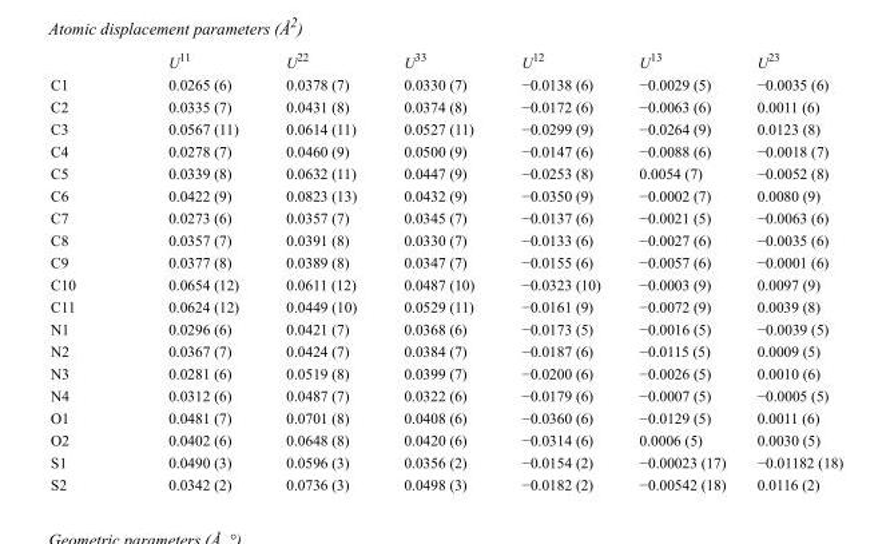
<table><thead><tr><td></td><td>U<sup>11</sup></td><td>U<sup>22</sup></td><td>U<sup>33</sup></td><td>U<sup>12</sup></td><td>U<sup>13</sup></td><td>U<sup>23</sup></td></tr></thead><tbody><tr><td>C1</td><td>0.0265 (6)</td><td>0.0378 (7)</td><td>0.0330 (7)</td><td>−0.0138 (6)</td><td>−0.0029 (5)</td><td>−0.0035 (6)</td></tr><tr><td>C2</td><td>0.0335 (7)</td><td>0.0431 (8)</td><td>0.0374 (8)</td><td>−0.0172 (6)</td><td>−0.0063 (6)</td><td>0.0011 (6)</td></tr><tr><td>C3</td><td>0.0567 (11)</td><td>0.0614 (11)</td><td>0.0527 (11)</td><td>−0.0299 (9)</td><td>−0.0264 (9)</td><td>0.0123 (8)</td></tr><tr><td>C4</td><td>0.0278 (7)</td><td>0.0460 (9)</td><td>0.0500 (9)</td><td>−0.0147 (6)</td><td>−0.0088 (6)</td><td>−0.0018 (7)</td></tr><tr><td>C5</td><td>0.0339 (8)</td><td>0.0632 (11)</td><td>0.0447 (9)</td><td>−0.0253 (8)</td><td>0.0054 (7)</td><td>−0.0052 (8)</td></tr><tr><td>C6</td><td>0.0422 (9)</td><td>0.0823 (13)</td><td>0.0432 (9)</td><td>−0.0350 (9)</td><td>−0.0002 (7)</td><td>0.0080 (9)</td></tr><tr><td>C7</td><td>0.0273 (6)</td><td>0.0357 (7)</td><td>0.0345 (7)</td><td>−0.0137 (6)</td><td>−0.0021 (5)</td><td>−0.0063 (6)</td></tr><tr><td>C8</td><td>0.0357 (7)</td><td>0.0391 (8)</td><td>0.0330 (7)</td><td>−0.0133 (6)</td><td>−0.0027 (6)</td><td>−0.0035 (6)</td></tr><tr><td>C9</td><td>0.0377 (8)</td><td>0.0389 (8)</td><td>0.0347 (7)</td><td>−0.0155 (6)</td><td>−0.0057 (6)</td><td>−0.0001 (6)</td></tr><tr><td>C10</td><td>0.0654 (12)</td><td>0.0611 (12)</td><td>0.0487 (10)</td><td>−0.0323 (10)</td><td>−0.0003 (9)</td><td>0.0097 (9)</td></tr><tr><td>C11</td><td>0.0624 (12)</td><td>0.0449 (10)</td><td>0.0529 (11)</td><td>−0.0161 (9)</td><td>−0.0072 (9)</td><td>0.0039 (8)</td></tr><tr><td>N1</td><td>0.0296 (6)</td><td>0.0421 (7)</td><td>0.0368 (6)</td><td>−0.0173 (5)</td><td>−0.0016 (5)</td><td>−0.0039 (5)</td></tr><tr><td>N2</td><td>0.0367 (7)</td><td>0.0424 (7)</td><td>0.0384 (7)</td><td>−0.0187 (6)</td><td>−0.0115 (5)</td><td>0.0009 (5)</td></tr><tr><td>N3</td><td>0.0281 (6)</td><td>0.0519 (8)</td><td>0.0399 (7)</td><td>−0.0200 (6)</td><td>−0.0026 (5)</td><td>0.0010 (6)</td></tr><tr><td>N4</td><td>0.0312 (6)</td><td>0.0487 (7)</td><td>0.0322 (6)</td><td>−0.0179 (6)</td><td>−0.0007 (5)</td><td>−0.0005 (5)</td></tr><tr><td>O1</td><td>0.0481 (7)</td><td>0.0701 (8)</td><td>0.0408 (6)</td><td>−0.0360 (6)</td><td>−0.0129 (5)</td><td>0.0011 (6)</td></tr><tr><td>O2</td><td>0.0402 (6)</td><td>0.0648 (8)</td><td>0.0420 (6)</td><td>−0.0314 (6)</td><td>0.0006 (5)</td><td>0.0030 (5)</td></tr><tr><td>S1</td><td>0.0490 (3)</td><td>0.0596 (3)</td><td>0.0356 (2)</td><td>−0.0154 (2)</td><td>−0.00023 (17)</td><td>−0.01182 (18)</td></tr><tr><td>S2</td><td>0.0342 (2)</td><td>0.0736 (3)</td><td>0.0498 (3)</td><td>−0.0182 (2)</td><td>−0.00542 (18)</td><td>0.0116 (2)</td></tr></tbody></table>